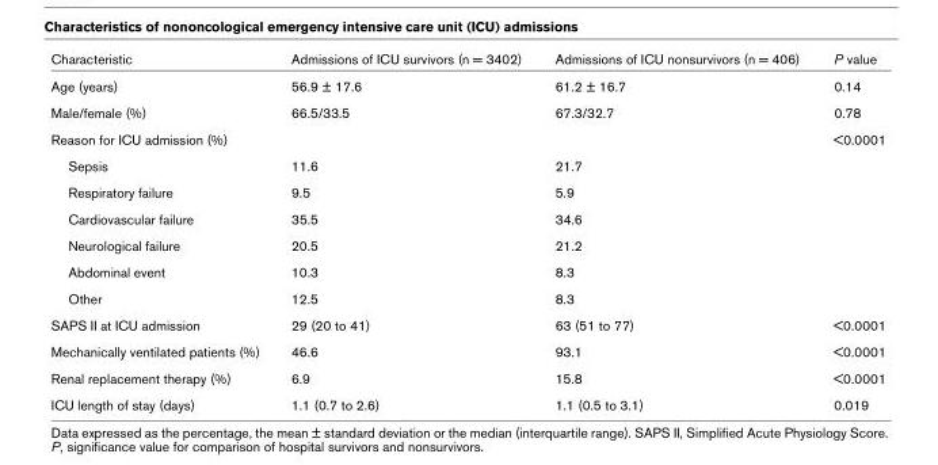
<table><thead><tr><td>Characteristic</td><td>Admissions of ICU survivors (n = 3402)</td><td>Admissions of ICU nonsurvivors (n = 406)</td><td>P value</td></tr></thead><tbody><tr><td>Age (years)</td><td>56.9 ± 17.6</td><td>61.2 ± 16.7</td><td>0.14</td></tr><tr><td>Male/female (%)</td><td>66.5/33.5</td><td>67.3/32.7</td><td>0.78</td></tr><tr><td>Reason for ICU admission (%)</td><td></td><td></td><td>&lt;0.0001</td></tr><tr><td>Sepsis</td><td>11.6</td><td>21.7</td><td></td></tr><tr><td>Respiratory failure</td><td>9.5</td><td>5.9</td><td></td></tr><tr><td>Cardiovascular failure</td><td>35.5</td><td>34.6</td><td></td></tr><tr><td>Neurological failure</td><td>20.5</td><td>21.2</td><td></td></tr><tr><td>Abdominal event</td><td>10.3</td><td>8.3</td><td></td></tr><tr><td>Other</td><td>12.5</td><td>8.3</td><td></td></tr><tr><td>SAPS II at ICU admission</td><td>29 (20 to 41)</td><td>63 (51 to 77)</td><td>&lt;0.0001</td></tr><tr><td>Mechanically ventilated patients (%)</td><td>46.6</td><td>93.1</td><td>&lt;0.0001</td></tr><tr><td>Renal replacement therapy (%)</td><td>6.9</td><td>15.8</td><td>&lt;0.0001</td></tr><tr><td>ICU length of stay (days)</td><td>1.1 (0.7 to 2.6)</td><td>1.1 (0.5 to 3.1)</td><td>0.019</td></tr></tbody></table>